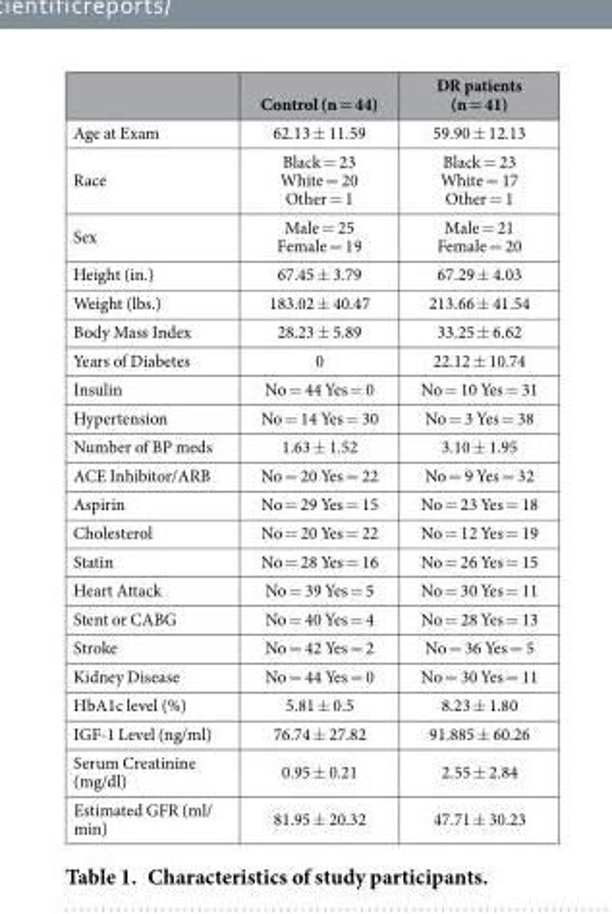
<table><thead><tr><td></td><td>Control (n = 44)</td><td>DR patients (n = 41)</td></tr></thead><tbody><tr><td>Age at Exam</td><td>62.13 ± 11.59</td><td>59.90 ± 12.13</td></tr><tr><td>Race</td><td>Black = 23 White = 20 Other = 1</td><td>Black = 23 White = 17 Other = 1</td></tr><tr><td>Sex</td><td>Male = 25 Female = 19</td><td>Male = 21 Female = 20</td></tr><tr><td>Height (in.)</td><td>67.45 ± 3.79</td><td>67.29 ± 4.03</td></tr><tr><td>Weight (lbs.)</td><td>183.02 ± 40.47</td><td>213.66 ± 41.54</td></tr><tr><td>Body Mass Index</td><td>28.23 ± 5.89</td><td>33.25 ± 6.62</td></tr><tr><td>Years of Diabetes</td><td>0</td><td>22.12 ± 10.74</td></tr><tr><td>Insulin</td><td>No = 44 Yes = 0</td><td>No = 10 Yes = 31</td></tr><tr><td>Hypertension</td><td>No = 14 Yes = 30</td><td>No = 3 Yes = 38</td></tr><tr><td>Number of BP meds</td><td>1.63 ± 1.52</td><td>3.10 ± 1.95</td></tr><tr><td>ACE Inhibitor/ARB</td><td>No = 20 Yes = 22</td><td>No = 9 Yes = 32</td></tr><tr><td>Aspirin</td><td>No = 29 Yes = 15</td><td>No = 23 Yes = 18</td></tr><tr><td>Cholesterol</td><td>No = 20 Yes = 22</td><td>No = 12 Yes = 19</td></tr><tr><td>Statin</td><td>No = 28 Yes = 16</td><td>No = 26 Yes = 15</td></tr><tr><td>Heart Attack</td><td>No = 39 Yes = 5</td><td>No = 30 Yes = 11</td></tr><tr><td>Stent or CABG</td><td>No = 40 Yes = 4</td><td>No = 28 Yes = 13</td></tr><tr><td>Stroke</td><td>No = 42 Yes = 2</td><td>No = 36 Yes = 5</td></tr><tr><td>Kidney Disease</td><td>No = 44 Yes = 0</td><td>No = 30 Yes = 11</td></tr><tr><td>HbA1c level (%)</td><td>5.81 ± 0.5</td><td>8.23 ± 1.80</td></tr><tr><td>IGF-1 Level (ng/ml)</td><td>76.74 ± 27.82</td><td>91.885 ± 60.26</td></tr><tr><td>Serum Creatinine (mg/dl)</td><td>0.95 ± 0.21</td><td>2.55 ± 2.84</td></tr><tr><td>Estimated GFR (ml/ min)</td><td>81.95 ± 20.32</td><td>47.71 ± 30.23</td></tr></tbody></table>